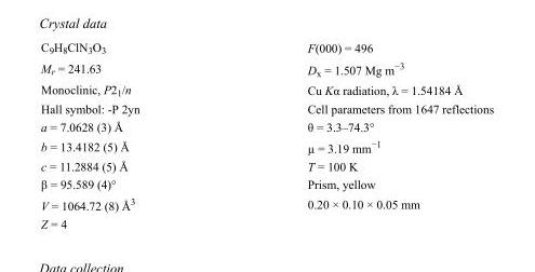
<table><tbody><tr><td>C<sub>9</sub>H<sub>8</sub>ClN<sub>3</sub>O<sub>3</sub></td><td>F(000) = 496</td></tr><tr><td>M<sub>r</sub> = 241.63</td><td>D<sub>x</sub> = 1.507 Mg m<sup>−3</sup></td></tr><tr><td>Monoclinic, P2<sub>1</sub>/n</td><td>Cu Kα radiation, λ = 1.54184 Å</td></tr><tr><td>Hall symbol: -P 2yn</td><td>Cell parameters from 1647 reflections</td></tr><tr><td>a = 7.0628 (3) Å</td><td>θ = 3.3–74.3°</td></tr><tr><td>b = 13.4182 (5) Å</td><td>µ = 3.19 mm<sup>−1</sup></td></tr><tr><td>c = 11.2884 (5) Å</td><td>T = 100 K</td></tr><tr><td>β = 95.589 (4)°</td><td>Prism, yellow</td></tr><tr><td>V = 1064.72 (8) Å<sup>3</sup></td><td>0.20 × 0.10 × 0.05 mm</td></tr><tr><td>Z = 4</td><td></td></tr></tbody></table>